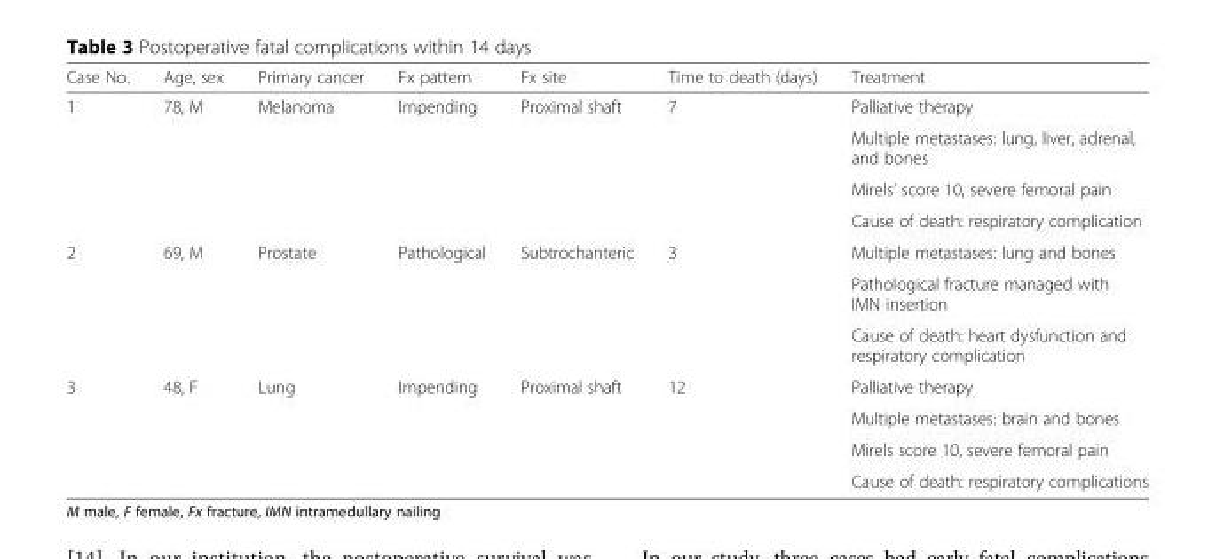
<table><thead><tr><td>Case No.</td><td>Age, sex</td><td>Primary cancer</td><td>Fx pattern</td><td>Fx site</td><td>Time to death (days)</td><td>Treatment</td></tr></thead><tbody><tr><td rowspan="4">1</td><td rowspan="4">78, M</td><td rowspan="4">Melanoma</td><td rowspan="4">Impending</td><td rowspan="4">Proximal shaft</td><td rowspan="4">7</td><td>Palliative therapy</td></tr><tr><td>Multiple metastases: lung, liver, adrenal, and bones</td></tr><tr><td>Mirels’ score 10, severe femoral pain</td></tr><tr><td>Cause of death: respiratory complication</td></tr><tr><td rowspan="3">2</td><td rowspan="3">69, M</td><td rowspan="3">Prostate</td><td rowspan="3">Pathological</td><td rowspan="3">Subtrochanteric</td><td rowspan="3">3</td><td>Multiple metastases: lung and bones</td></tr><tr><td>Pathological fracture managed with IMN insertion</td></tr><tr><td>Cause of death: heart dysfunction and respiratory complication</td></tr><tr><td rowspan="4">3</td><td rowspan="4">48, F</td><td rowspan="4">Lung</td><td rowspan="4">Impending</td><td rowspan="4">Proximal shaft</td><td rowspan="4">12</td><td>Palliative therapy</td></tr><tr><td>Multiple metastases: brain and bones</td></tr><tr><td>Mirels score 10, severe femoral pain</td></tr><tr><td>Cause of death: respiratory complications</td></tr></tbody></table>